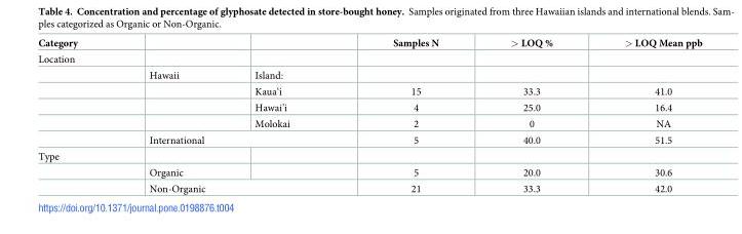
<table><thead><tr><td>Category</td><td></td><td></td><td>Samples N</td><td>&gt; LOQ %</td><td>&gt; LOQ Mean ppb</td></tr></thead><tbody><tr><td colspan="6">Location</td></tr><tr><td></td><td>Hawaii</td><td>Island:</td><td></td><td></td><td></td></tr><tr><td></td><td></td><td>Kaua‘i</td><td>15</td><td>33.3</td><td>41.0</td></tr><tr><td></td><td></td><td>Hawai’i</td><td>4</td><td>25.0</td><td>16.4</td></tr><tr><td></td><td></td><td>Molokai</td><td>2</td><td>0</td><td>NA</td></tr><tr><td></td><td colspan="2">International</td><td>5</td><td>40.0</td><td>51.5</td></tr><tr><td colspan="6">Type</td></tr><tr><td></td><td>Organic</td><td></td><td>5</td><td>20.0</td><td>30.6</td></tr><tr><td></td><td colspan="2">Non-Organic</td><td>21</td><td>33.3</td><td>42.0</td></tr></tbody></table>